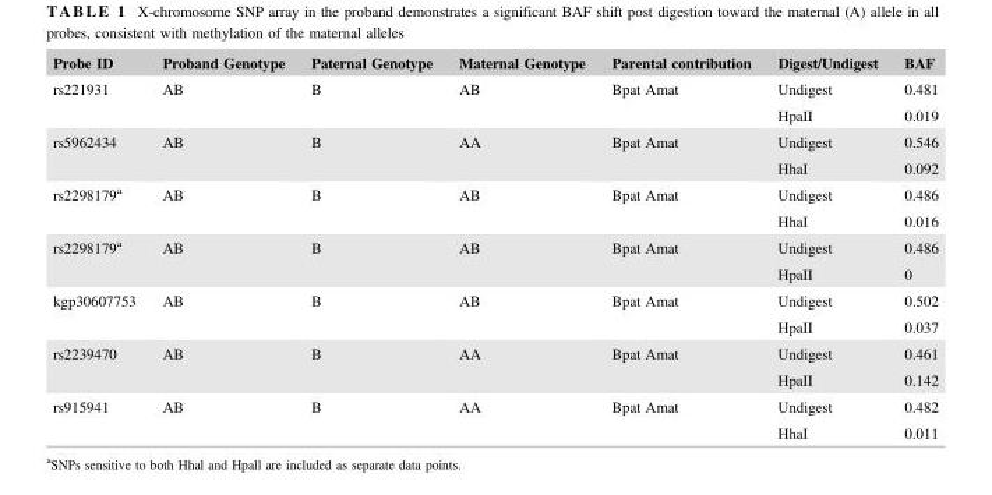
<table><thead><tr><td>Probe ID</td><td>Proband Genotype</td><td>Paternal Genotype</td><td>Maternal Genotype</td><td>Parental contribution</td><td>Digest/Undigest</td><td>BAF</td></tr></thead><tbody><tr><td rowspan="2">rs221931</td><td rowspan="2">AB</td><td rowspan="2">B</td><td rowspan="2">AB</td><td rowspan="2">Bpat Amat</td><td>Undigest</td><td>0.481</td></tr><tr><td>HpaII</td><td>0.019</td></tr><tr><td rowspan="2">rs5962434</td><td rowspan="2">AB</td><td rowspan="2">B</td><td rowspan="2">AA</td><td rowspan="2">Bpat Amat</td><td>Undigest</td><td>0.546</td></tr><tr><td>HhaI</td><td>0.092</td></tr><tr><td rowspan="2">rs2298179<sup>a</sup></td><td rowspan="2">AB</td><td rowspan="2">B</td><td rowspan="2">AB</td><td rowspan="2">Bpat Amat</td><td>Undigest</td><td>0.486</td></tr><tr><td>HhaI</td><td>0.016</td></tr><tr><td rowspan="2">rs2298179<sup>a</sup></td><td rowspan="2">AB</td><td rowspan="2">B</td><td rowspan="2">AB</td><td rowspan="2">Bpat Amat</td><td>Undigest</td><td>0.486</td></tr><tr><td>HpaII</td><td>0</td></tr><tr><td rowspan="2">kgp30607753</td><td rowspan="2">AB</td><td rowspan="2">B</td><td rowspan="2">AB</td><td rowspan="2">Bpat Amat</td><td>Undigest</td><td>0.502</td></tr><tr><td>HpaII</td><td>0.037</td></tr><tr><td rowspan="2">rs2239470</td><td rowspan="2">AB</td><td rowspan="2">B</td><td rowspan="2">AA</td><td rowspan="2">Bpat Amat</td><td>Undigest</td><td>0.461</td></tr><tr><td>HpaII</td><td>0.142</td></tr><tr><td rowspan="2">rs915941</td><td rowspan="2">AB</td><td rowspan="2">B</td><td rowspan="2">AA</td><td rowspan="2">Bpat Amat</td><td>Undigest</td><td>0.482</td></tr><tr><td>HhaI</td><td>0.011</td></tr></tbody></table>